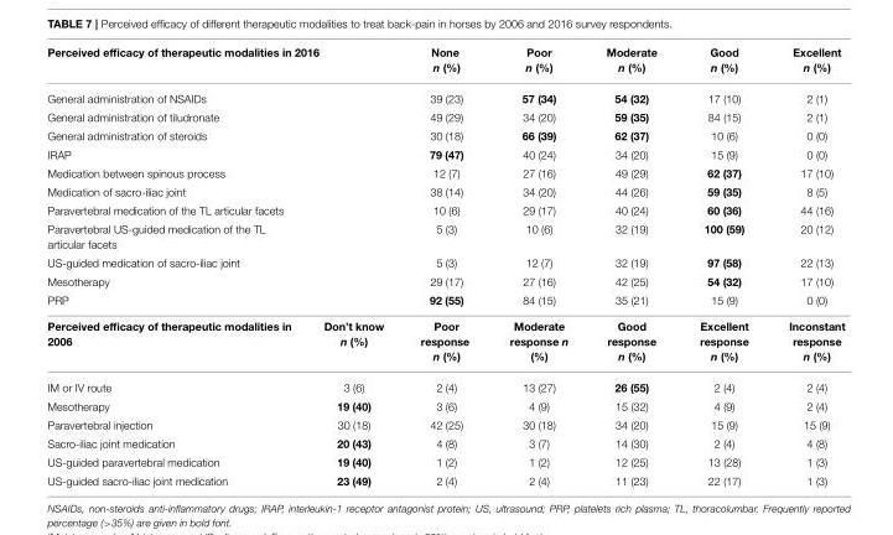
<table><thead><tr><td colspan="2">Perceived efficacy of therapeutic modalities in 2016</td><td rowspan="2">None n (%) 39 (23)</td><td rowspan="2">Poor n (%) 57 (34)</td><td rowspan="2">Moderate n (%) 54 (32)</td><td rowspan="2">Good n (%) 17 (10)</td><td rowspan="2">Excellent n (%) 2 (1)</td></tr><tr><td>General administration of NSAIDs</td><td></td></tr></thead><tbody><tr><td>General administration of tiludronate</td><td></td><td>49 (29)</td><td>34 (20)</td><td>59 (35)</td><td>84 (15)</td><td>2 (1)</td></tr><tr><td>General administration of steroids</td><td></td><td>30 (18)</td><td>66 (39)</td><td>62 (37)</td><td>10 (6)</td><td>0 (0)</td></tr><tr><td>IRAP</td><td></td><td>79 (47)</td><td>40 (24)</td><td>34 (20)</td><td>15 (9)</td><td>0 (0)</td></tr><tr><td>Medication between spinous process</td><td></td><td>12 (7)</td><td>27 (16)</td><td>49 (29)</td><td>62 (37)</td><td>17 (10)</td></tr><tr><td>Medication of sacro-iliac joint</td><td></td><td>38 (14)</td><td>34 (20)</td><td>44 (26)</td><td>59 (35)</td><td>8 (5)</td></tr><tr><td>Paravertebral medication of the TL articular facets</td><td></td><td>10 (6)</td><td>29 (17)</td><td>40 (24)</td><td>60 (36)</td><td>44 (16)</td></tr><tr><td>Paravertebral US-guided medication of the TL articular facets</td><td></td><td>5 (3)</td><td>10 (6)</td><td>32 (19)</td><td>100 (59)</td><td>20 (12)</td></tr><tr><td>US-guided medication of sacro-iliac joint</td><td></td><td>5 (3)</td><td>12 (7)</td><td>32 (19)</td><td>97 (58)</td><td>22 (13)</td></tr><tr><td>Mesotherapy</td><td></td><td>29 (17)</td><td>27 (16)</td><td>42 (25)</td><td>54 (32)</td><td>17 (10)</td></tr><tr><td>PRP</td><td></td><td>92 (55)</td><td>84 (15)</td><td>35 (21)</td><td>15 (9)</td><td>0 (0)</td></tr><tr><td>Perceived efficacy of therapeutic modalities in 2006</td><td>Don’t know n (%)</td><td>Poor response n (%)</td><td>Moderate response n (%)</td><td>Good response n (%)</td><td>Excellent response n (%)</td><td>Inconstant response n (%)</td></tr><tr><td>IM or IV route</td><td>3 (6)</td><td>2 (4)</td><td>13 (27)</td><td>26 (55)</td><td>2 (4)</td><td>2 (4)</td></tr><tr><td>Mesotherapy</td><td>19 (40)</td><td>3 (6)</td><td>4 (9)</td><td>15 (32)</td><td>4 (9)</td><td>2 (4)</td></tr><tr><td>Paravertebral injection</td><td>30 (18)</td><td>42 (25)</td><td>30 (18)</td><td>34 (20)</td><td>15 (9)</td><td>15 (9)</td></tr><tr><td>Sacro-iliac joint medication</td><td>20 (43)</td><td>4 (8)</td><td>3 (7)</td><td>14 (30)</td><td>2 (4)</td><td>4 (8)</td></tr><tr><td>US-guided paravertebral medication</td><td>19 (40)</td><td>1 (2)</td><td>1 (2)</td><td>12 (25)</td><td>13 (28)</td><td>1 (3)</td></tr><tr><td>US-guided sacro-iliac joint medication</td><td>23 (49)</td><td>2 (4)</td><td>2 (4)</td><td>11 (23)</td><td>22 (17)</td><td>1 (3)</td></tr></tbody></table>